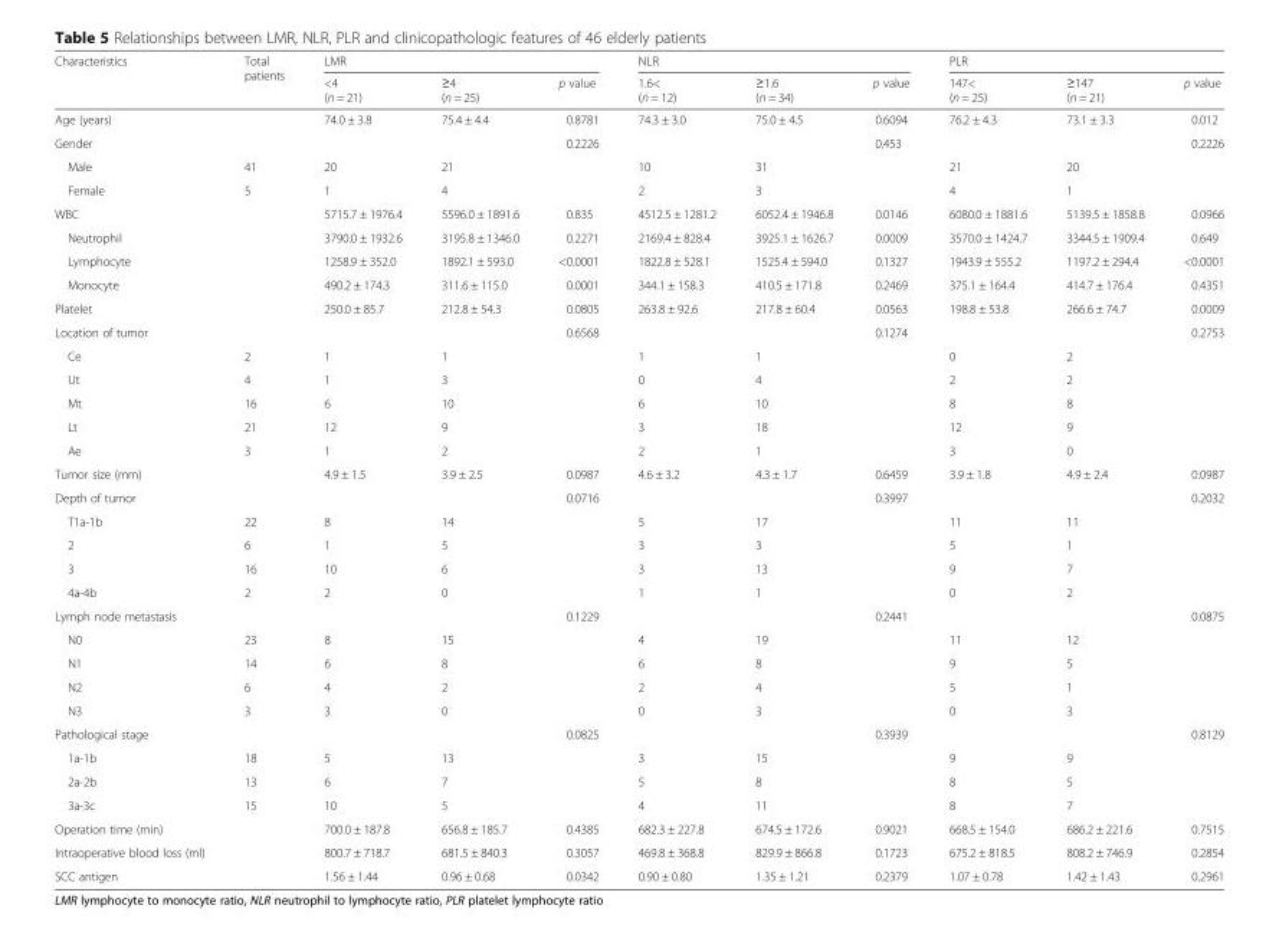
<table><thead><tr><td rowspan="2">Characteristics</td><td rowspan="2">Total patients</td><td colspan="3">LMR</td><td colspan="3">NLR</td><td colspan="3">PLR</td></tr><tr><td>&lt;4 (n = 21)</td><td>≥4 (n = 25)</td><td>p value</td><td>1.6&lt; (n = 12)</td><td>≥1.6 (n = 34)</td><td>p value</td><td>147&lt; (n = 25)</td><td>≥147 (n = 21)</td><td>p value</td></tr></thead><tbody><tr><td>Age (years)</td><td></td><td>74.0 ± 3.8</td><td>75.4 ± 4.4</td><td>0.8781</td><td>74.3 ± 3.0</td><td>75.0 ± 4.5</td><td>0.6094</td><td>76.2 ± 4.3</td><td>73.1 ± 3.3</td><td>0.012</td></tr><tr><td>Gender</td><td></td><td></td><td></td><td>0.2226</td><td></td><td></td><td>0.453</td><td></td><td></td><td>0.2226</td></tr><tr><td>Male</td><td>41</td><td>20</td><td>21</td><td></td><td>10</td><td>31</td><td></td><td>21</td><td>20</td><td></td></tr><tr><td>Female</td><td>5</td><td>1</td><td>4</td><td></td><td>2</td><td>3</td><td></td><td>4</td><td>1</td><td></td></tr><tr><td>WBC</td><td></td><td>5715.7 ± 1976.4</td><td>5596.0 ± 1891.6</td><td>0.835</td><td>4512.5 ± 1281.2</td><td>6052.4 ± 1946.8</td><td>0.0146</td><td>6080.0 ± 1881.6</td><td>5139.5 ± 1858.8</td><td>0.0966</td></tr><tr><td>Neutrophil</td><td></td><td>3790.0 ± 1932.6</td><td>3195.8 ± 1346.0</td><td>0.2271</td><td>2169.4 ± 828.4</td><td>3925.1 ± 1626.7</td><td>0.0009</td><td>3570.0 ± 1424.7</td><td>3344.5 ± 1909.4</td><td>0.649</td></tr><tr><td>Lymphocyte</td><td></td><td>1258.9 ± 352.0</td><td>1892.1 ± 593.0</td><td>&lt;0.0001</td><td>1822.8 ± 528.1</td><td>1525.4 ± 594.0</td><td>0.1327</td><td>1943.9 ± 555.2</td><td>1197.2 ± 294.4</td><td>&lt;0.0001</td></tr><tr><td>Monocyte</td><td></td><td>490.2 ± 174.3</td><td>311.6 ± 115.0</td><td>0.0001</td><td>344.1 ± 158.3</td><td>410.5 ± 171.8</td><td>0.2469</td><td>375.1 ± 164.4</td><td>414.7 ± 176.4</td><td>0.4351</td></tr><tr><td>Platelet</td><td></td><td>250.0 ± 85.7</td><td>212.8 ± 54.3</td><td>0.0805</td><td>263.8 ± 92.6</td><td>217.8 ± 60.4</td><td>0.0563</td><td>198.8 ± 53.8</td><td>266.6 ± 74.7</td><td>0.0009</td></tr><tr><td>Location of tumor</td><td></td><td></td><td></td><td>0.6568</td><td></td><td></td><td>0.1274</td><td></td><td></td><td>0.2753</td></tr><tr><td>Ce</td><td>2</td><td>1</td><td>1</td><td></td><td>1</td><td>1</td><td></td><td>0</td><td>2</td><td></td></tr><tr><td>Ut</td><td>4</td><td>1</td><td>3</td><td></td><td>0</td><td>4</td><td></td><td>2</td><td>2</td><td></td></tr><tr><td>Mt</td><td>16</td><td>6</td><td>10</td><td></td><td>6</td><td>10</td><td></td><td>8</td><td>8</td><td></td></tr><tr><td>Lt</td><td>21</td><td>12</td><td>9</td><td></td><td>3</td><td>18</td><td></td><td>12</td><td>9</td><td></td></tr><tr><td>Ae</td><td>3</td><td>1</td><td>2</td><td></td><td>2</td><td>1</td><td></td><td>3</td><td>0</td><td></td></tr><tr><td>Tumor size (mm)</td><td></td><td>4.9 ± 1.5</td><td>3.9 ± 2.5</td><td>0.0987</td><td>4.6 ± 3.2</td><td>4.3 ± 1.7</td><td>0.6459</td><td>3.9 ± 1.8</td><td>4.9 ± 2.4</td><td>0.0987</td></tr><tr><td>Depth of tumor</td><td></td><td></td><td></td><td>0.0716</td><td></td><td></td><td>0.3997</td><td></td><td></td><td>0.2032</td></tr><tr><td>T1a-1b</td><td>22</td><td>8</td><td>14</td><td></td><td>5</td><td>17</td><td></td><td>11</td><td>11</td><td></td></tr><tr><td>2</td><td>6</td><td>1</td><td>5</td><td></td><td>3</td><td>3</td><td></td><td>5</td><td>1</td><td></td></tr><tr><td>3</td><td>16</td><td>10</td><td>6</td><td></td><td>3</td><td>13</td><td></td><td>9</td><td>7</td><td></td></tr><tr><td>4a-4b</td><td>2</td><td>2</td><td>0</td><td></td><td>1</td><td>1</td><td></td><td>0</td><td>2</td><td></td></tr><tr><td>Lymph node metastasis</td><td></td><td></td><td></td><td>0.1229</td><td></td><td></td><td>0.2441</td><td></td><td></td><td>0.0875</td></tr><tr><td>N0</td><td>23</td><td>8</td><td>15</td><td></td><td>4</td><td>19</td><td></td><td>11</td><td>12</td><td></td></tr><tr><td>N1</td><td>14</td><td>6</td><td>8</td><td></td><td>6</td><td>8</td><td></td><td>9</td><td>5</td><td></td></tr><tr><td>N2</td><td>6</td><td>4</td><td>2</td><td></td><td>2</td><td>4</td><td></td><td>5</td><td>1</td><td></td></tr><tr><td>N3</td><td>3</td><td>3</td><td>0</td><td></td><td>0</td><td>3</td><td></td><td>0</td><td>3</td><td></td></tr><tr><td>Pathological stage</td><td></td><td></td><td></td><td>0.0825</td><td></td><td></td><td>0.3939</td><td></td><td></td><td>0.8129</td></tr><tr><td>1a-1b</td><td>18</td><td>5</td><td>13</td><td></td><td>3</td><td>15</td><td></td><td>9</td><td>9</td><td></td></tr><tr><td>2a-2b</td><td>13</td><td>6</td><td>7</td><td></td><td>5</td><td>8</td><td></td><td>8</td><td>5</td><td></td></tr><tr><td>3a-3c</td><td>15</td><td>10</td><td>5</td><td></td><td>4</td><td>11</td><td></td><td>8</td><td>7</td><td></td></tr><tr><td>Operation time (min)</td><td></td><td>700.0 ± 187.8</td><td>656.8 ± 185.7</td><td>0.4385</td><td>682.3 ± 227.8</td><td>674.5 ± 172.6</td><td>0.9021</td><td>668.5 ± 154.0</td><td>686.2 ± 221.6</td><td>0.7515</td></tr><tr><td>Intraoperative blood loss (ml)</td><td></td><td>800.7 ± 718.7</td><td>681.5 ± 840.3</td><td>0.3057</td><td>469.8 ± 368.8</td><td>829.9 ± 866.8</td><td>0.1723</td><td>675.2 ± 818.5</td><td>808.2 ± 746.9</td><td>0.2854</td></tr><tr><td>SCC antigen</td><td></td><td>1.56 ± 1.44</td><td>0.96 ± 0.68</td><td>0.0342</td><td>0.90 ± 0.80</td><td>1.35 ± 1.21</td><td>0.2379</td><td>1.07 ± 0.78</td><td>1.42 ± 1.43</td><td>0.2961</td></tr></tbody></table>